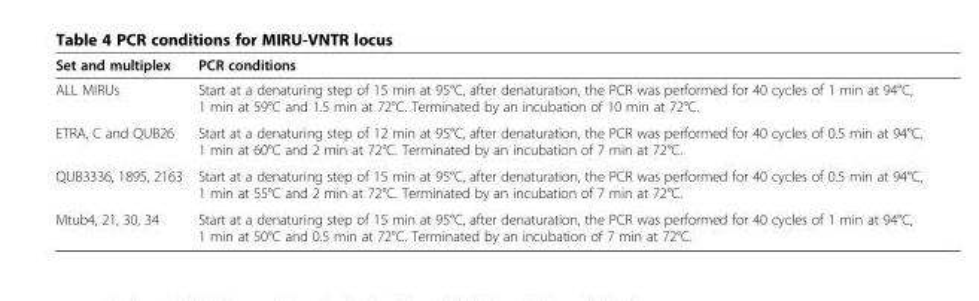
<table><thead><tr><td>Set and multiplex</td><td>PCR conditions</td></tr></thead><tbody><tr><td>ALL MIRUs</td><td>Start at a denaturing step of 15 min at 95°C, after denaturation, the PCR was performed for 40 cycles of 1 min at 94°C, 1 min at 59°C and 1.5 min at 72°C. Terminated by an incubation of 10 min at 72°C.</td></tr><tr><td>ETRA, C and QUB26</td><td>Start at a denaturing step of 12 min at 95°C, after denaturation, the PCR was performed for 40 cycles of 0.5 min at 94°C, 1 min at 60°C and 2 min at 72°C. Terminated by an incubation of 7 min at 72°C.</td></tr><tr><td>QUB3336, 1895, 2163</td><td>Start at a denaturing step of 15 min at 95°C, after denaturation, the PCR was performed for 40 cycles of 0.5 min at 94°C, 1 min at 55°C and 2 min at 72°C. Terminated by an incubation of 7 min at 72°C.</td></tr><tr><td>Mtub4, 21, 30, 34</td><td>Start at a denaturing step of 15 min at 95°C, after denaturation, the PCR was performed for 40 cycles of 1 min at 94°C, 1 min at 50°C and 0.5 min at 72°C. Terminated by an incubation of 7 min at 72°C.</td></tr></tbody></table>